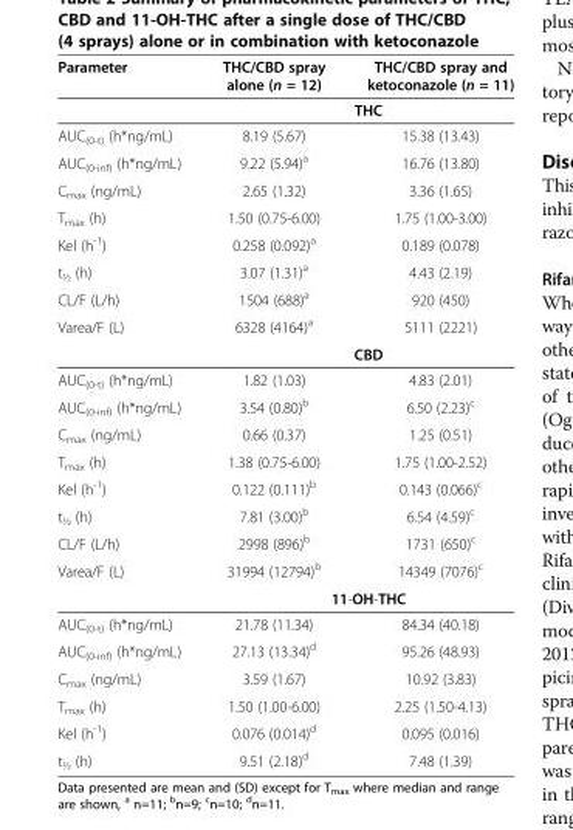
<table><thead><tr><td>Parameter</td><td>THC/CBD spray alone (n = 12)</td><td>THC/CBD spray and ketoconazole (n = 11)</td></tr></thead><tbody><tr><td></td><td colspan="2">THC</td></tr><tr><td>AUC<sub>(0-t)</sub> (h*ng/mL)</td><td>8.19 (5.67)</td><td>15.38 (13.43)</td></tr><tr><td>AUC<sub>(0-inf)</sub> (h*ng/mL)</td><td>9.22 (5.94)<sup>a</sup></td><td>16.76 (13.80)</td></tr><tr><td>C<sub>max</sub> (ng/mL)</td><td>2.65 (1.32)</td><td>3.36 (1.65)</td></tr><tr><td>T<sub>max</sub> (h)</td><td>1.50 (0.75-6.00)</td><td>1.75 (1.00-3.00)</td></tr><tr><td>Kel (h<sup>-1</sup>)</td><td>0.258 (0.092)<sup>a</sup></td><td>0.189 (0.078)</td></tr><tr><td>t<sub>½</sub> (h)</td><td>3.07 (1.31)<sup>a</sup></td><td>4.43 (2.19)</td></tr><tr><td>CL/F (L/h)</td><td>1504 (688)<sup>a</sup></td><td>920 (450)</td></tr><tr><td rowspan="2">Varea/F (L)</td><td>6328 (4164)<sup>a</sup></td><td>5111 (2221)</td></tr><tr><td colspan="2">CBD</td></tr><tr><td>AUC<sub>(0-t)</sub> (h*ng/mL)</td><td>1.82 (1.03)</td><td>4.83 (2.01)</td></tr><tr><td>AUC<sub>(0-inf)</sub> (h*ng/mL)</td><td>3.54 (0.80)<sup>b</sup></td><td>6.50 (2.23)<sup>c</sup></td></tr><tr><td>C<sub>max</sub> (ng/mL)</td><td>0.66 (0.37)</td><td>1.25 (0.51)</td></tr><tr><td>T<sub>max</sub> (h)</td><td>1.38 (0.75-6.00)</td><td>1.75 (1.00-2.52)</td></tr><tr><td>Kel (h<sup>-1</sup>)</td><td>0.122 (0.111)<sup>b</sup></td><td>0.143 (0.066)<sup>c</sup></td></tr><tr><td>t<sub>½</sub> (h)</td><td>7.81 (3.00)<sup>b</sup></td><td>6.54 (4.59)<sup>c</sup></td></tr><tr><td>CL/F (L/h)</td><td>2998 (896)<sup>b</sup></td><td>1731 (650)<sup>c</sup></td></tr><tr><td rowspan="2">Varea/F (L)</td><td>31994 (12794)<sup>b</sup></td><td>14349 (7076)<sup>c</sup></td></tr><tr><td colspan="2">11-OH-THC</td></tr><tr><td>AUC<sub>(0-t)</sub> (h*ng/mL)</td><td>21.78 (11.34)</td><td>84.34 (40.18)</td></tr><tr><td>AUC<sub>(0-inf)</sub> (h*ng/mL)</td><td>27.13 (13.34)<sup>d</sup></td><td>95.26 (48.93)</td></tr><tr><td>C<sub>max</sub> (ng/mL)</td><td>3.59 (1.67)</td><td>10.92 (3.83)</td></tr><tr><td>T<sub>max</sub> (h)</td><td>1.50 (1.00-6.00)</td><td>2.25 (1.50-4.13)</td></tr><tr><td>Kel (h<sup>-1</sup>)</td><td>0.076 (0.014)<sup>d</sup></td><td>0.095 (0.016)</td></tr><tr><td>t<sub>½</sub> (h)</td><td>9.51 (2.18)<sup>d</sup></td><td>7.48 (1.39)</td></tr></tbody></table>